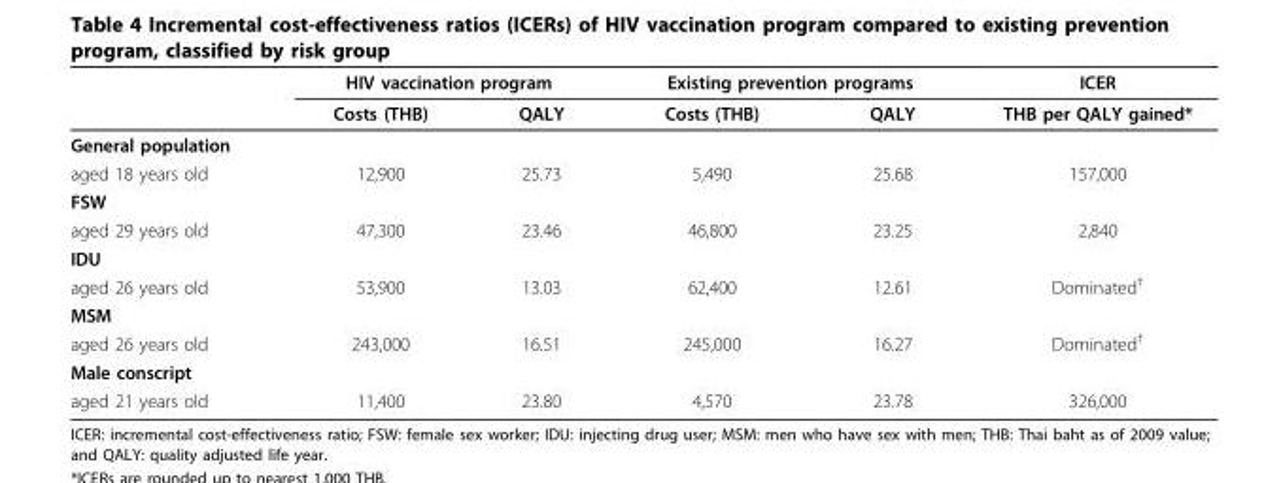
<table><thead><tr><td rowspan="2"></td><td colspan="2">HIV vaccination program</td><td colspan="2">Existing prevention programs</td><td rowspan="2">ICER THB per QALY gained*</td></tr><tr><td>Costs (THB)</td><td>QALY</td><td>Costs (THB)</td><td>QALY</td></tr></thead><tbody><tr><td colspan="6">General population</td></tr><tr><td>aged 18 years old</td><td>12,900</td><td>25.73</td><td>5,490</td><td>25.68</td><td>157,000</td></tr><tr><td colspan="6">FSW</td></tr><tr><td>aged 29 years old</td><td>47,300</td><td>23.46</td><td>46,800</td><td>23.25</td><td>2,840</td></tr><tr><td colspan="6">IDU</td></tr><tr><td>aged 26 years old</td><td>53,900</td><td>13.03</td><td>62,400</td><td>12.61</td><td>Dominated<sup>†</sup></td></tr><tr><td colspan="6">MSM</td></tr><tr><td>aged 26 years old</td><td>243,000</td><td>16.51</td><td>245,000</td><td>16.27</td><td>Dominated<sup>†</sup></td></tr><tr><td colspan="6">Male conscript</td></tr><tr><td>aged 21 years old</td><td>11,400</td><td>23.80</td><td>4,570</td><td>23.78</td><td>326,000</td></tr></tbody></table>